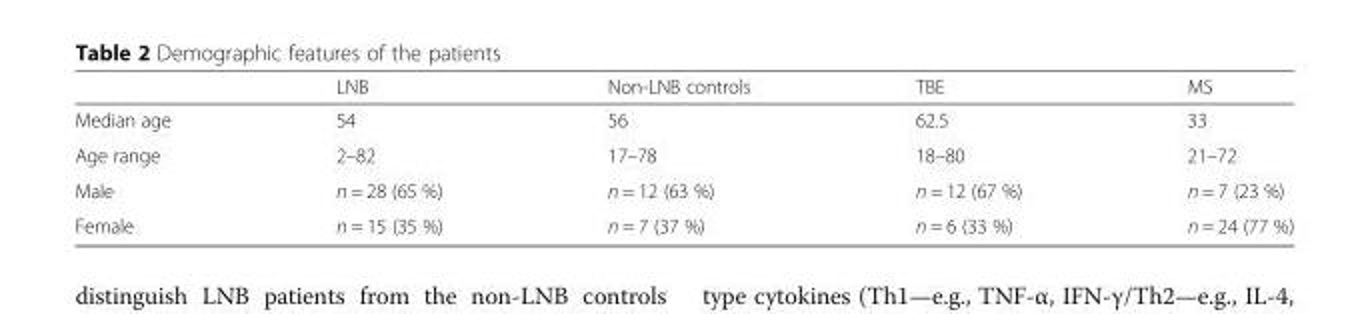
<table><thead><tr><td></td><td>LNB</td><td>Non-LNB controls</td><td>TBE</td><td>MS</td></tr></thead><tbody><tr><td>Median age</td><td>54</td><td>56</td><td>62.5</td><td>33</td></tr><tr><td>Age range</td><td>2–82</td><td>17–78</td><td>18–80</td><td>21–72</td></tr><tr><td>Male</td><td>n = 28 (65 %)</td><td>n = 12 (63 %)</td><td>n = 12 (67 %)</td><td>n = 7 (23 %)</td></tr><tr><td>Female</td><td>n = 15 (35 %)</td><td>n = 7 (37 %)</td><td>n = 6 (33 %)</td><td>n = 24 (77 %)</td></tr></tbody></table>